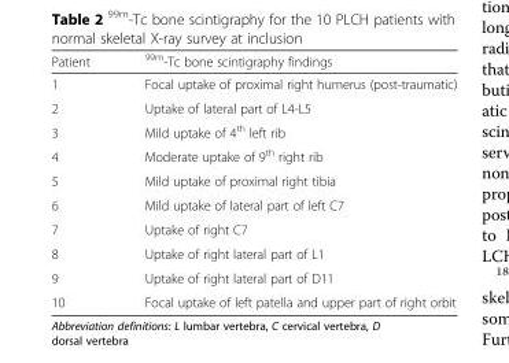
<table><thead><tr><td>Patient</td><td><sup>99m</sup>-Tc bone scintigraphy findings</td></tr></thead><tbody><tr><td>1</td><td>Focal uptake of proximal right humerus (post-traumatic)</td></tr><tr><td>2</td><td>Uptake of lateral part of L4-L5</td></tr><tr><td>3</td><td>Mild uptake of 4<sup>th</sup> left rib</td></tr><tr><td>4</td><td>Moderate uptake of 9<sup>th</sup> right rib</td></tr><tr><td>5</td><td>Mild uptake of proximal right tibia</td></tr><tr><td>6</td><td>Mild uptake of lateral part of left C7</td></tr><tr><td>7</td><td>Uptake of right C7</td></tr><tr><td>8</td><td>Uptake of right lateral part of L1</td></tr><tr><td>9</td><td>Uptake of right lateral part of D11</td></tr><tr><td>10</td><td>Focal uptake of left patella and upper part of right orbit</td></tr></tbody></table>